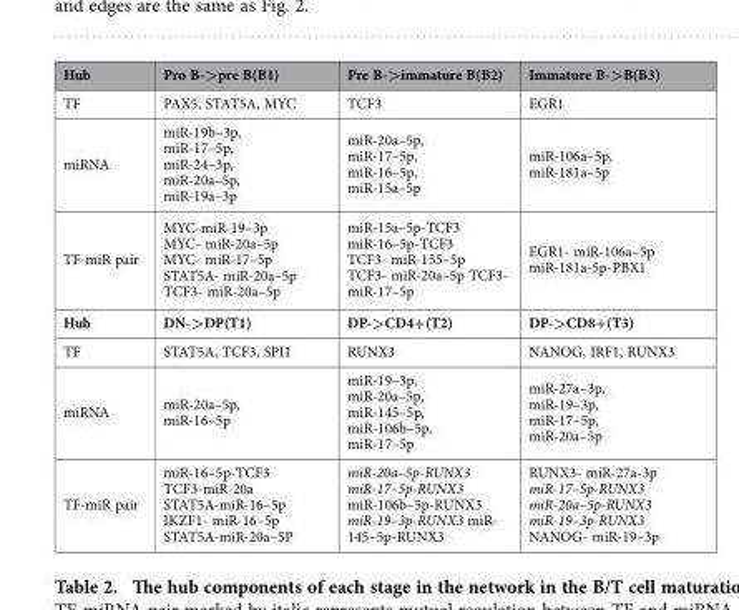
<table><thead><tr><td>Hub</td><td>Pro B-&gt;pre B(B1)</td><td>Pre B-&gt;immature B(B2)</td><td>Immature B-&gt;B(B3)</td></tr></thead><tbody><tr><td>TF</td><td>PAX5, STAT5A, MYC</td><td>TCF3</td><td>EGR1</td></tr><tr><td>miRNA</td><td>miR-19b–3p, miR-17–5p, miR-24–3p, miR-20a–5p, miR-19a–3p</td><td>miR-20a–5p, miR-17–5p, miR-16–5p, miR-15a–5p</td><td>miR-106a–5p, miR-181a–5p</td></tr><tr><td>TF-miR pair</td><td>MYC-miR-19–3p MYC- miR-20a–5p MYC- miR-17–5p STAT5A- miR-20a–5p TCF3- miR-20a–5p</td><td>miR-15a–5p-TCF3 miR-16–5p-TCF3 TCF3- miR-155–5p TCF3- miR-20a–5p TCF3- miR-17–5p</td><td>EGR1- miR-106a–5p miR-181a-5p-PBX1</td></tr><tr><td>Hub</td><td>DN-&gt;DP(T1)</td><td>DP-&gt;CD4+(T2)</td><td>DP-&gt;CD8+(T3)</td></tr><tr><td>TF</td><td>STAT5A, TCF3, SPI1</td><td>RUNX3</td><td>NANOG, IRF1, RUNX3</td></tr><tr><td>miRNA</td><td>miR-20a–5p, miR-16–5p</td><td>miR-19–3p, miR-20a–5p, miR-145–5p, miR-106b–5p, miR-17–5p</td><td>miR-27a–3p, miR-19–3p, miR-17–5p, miR-20a–5p</td></tr><tr><td>TF-miR pair</td><td>miR-16–5p-TCF3 TCF3-miR-20a STAT5A-miR-16–5p IKZF1- miR-16–5p STAT5A-miR-20a–5P</td><td>miR-20a–5p-RUNX3 miR-17–5p-RUNX3 miR-106b–5p-RUNX3 miR-19–3p-RUNX3 miR- 145–5p-RUNX3</td><td>RUNX3- miR-27a-3p miR-17–5p-RUNX3 miR-20a–5p-RUNX3 miR-19–3p-RUNX3 NANOG- miR-19–3p</td></tr></tbody></table>